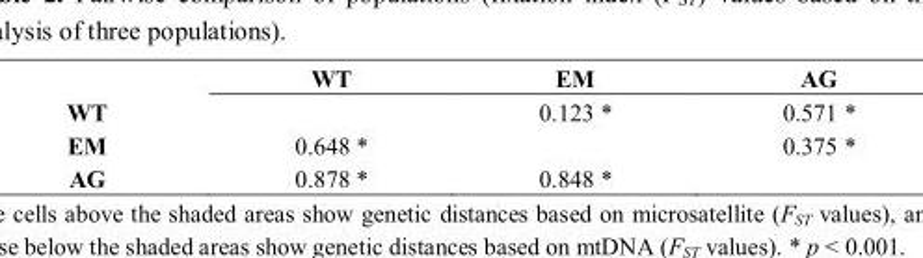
<table><thead><tr><td></td><td>WT</td><td>EM</td><td>AG</td></tr></thead><tbody><tr><td>WT</td><td></td><td>0.123 *</td><td>0.571 *</td></tr><tr><td>EM</td><td>0.648 *</td><td></td><td>0.375 *</td></tr><tr><td>AG</td><td>0.878 *</td><td>0.848 *</td><td></td></tr></tbody></table>